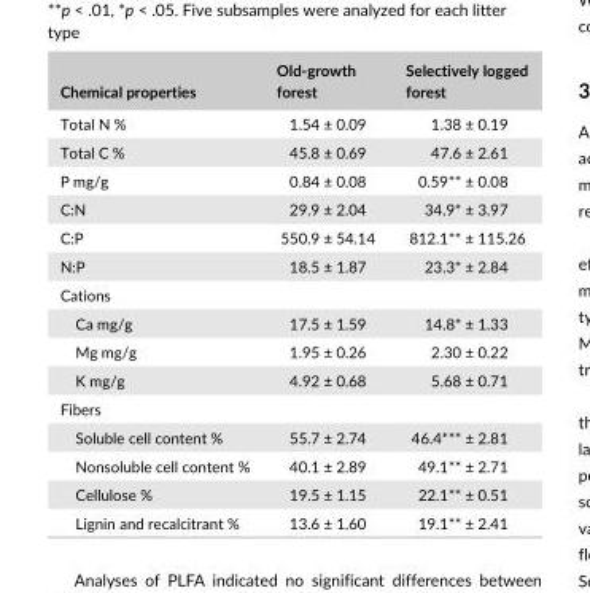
<table><thead><tr><td>Chemical properties</td><td>Old- growth forest</td><td>Selectively logged forest</td></tr></thead><tbody><tr><td>Total N %</td><td>1.54 ± 0.09</td><td>1.38 ± 0.19</td></tr><tr><td>Total C %</td><td>45.8 ± 0.69</td><td>47.6 ± 2.61</td></tr><tr><td>P mg/g</td><td>0.84 ± 0.08</td><td>0.59** ± 0.08</td></tr><tr><td>C:N</td><td>29.9 ± 2.04</td><td>34.9* ± 3.97</td></tr><tr><td>C:P</td><td>550.9 ± 54.14</td><td>812.1** ± 115.26</td></tr><tr><td>N:P</td><td>18.5 ± 1.87</td><td>23.3* ± 2.84</td></tr><tr><td colspan="3">Cations</td></tr><tr><td>Ca mg/g</td><td>17.5 ± 1.59</td><td>14.8* ± 1.33</td></tr><tr><td>Mg mg/g</td><td>1.95 ± 0.26</td><td>2.30 ± 0.22</td></tr><tr><td>K mg/g</td><td>4.92 ± 0.68</td><td>5.68 ± 0.71</td></tr><tr><td colspan="3">Fibers</td></tr><tr><td>Soluble cell content %</td><td>55.7 ± 2.74</td><td>46.4*** ± 2.81</td></tr><tr><td>Nonsoluble cell content %</td><td>40.1 ± 2.89</td><td>49.1** ± 2.71</td></tr><tr><td>Cellulose %</td><td>19.5 ± 1.15</td><td>22.1** ± 0.51</td></tr><tr><td>Lignin and recalcitrant %</td><td>13.6 ± 1.60</td><td>19.1** ± 2.41</td></tr></tbody></table>